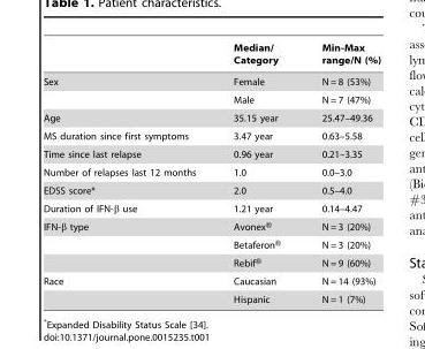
<table><thead><tr><td></td><td>Median/ Category</td><td>Min-Max range/N (%)</td></tr></thead><tbody><tr><td rowspan="2">Sex</td><td>Female</td><td>N = 8 (53%)</td></tr><tr><td>Male</td><td>N = 7 (47%)</td></tr><tr><td>Age</td><td>35.15 year</td><td>25.47–49.36</td></tr><tr><td>MS duration since first symptoms</td><td>3.47 year</td><td>0.63–5.58</td></tr><tr><td>Time since last relapse</td><td>0.96 year</td><td>0.21–3.35</td></tr><tr><td>Number of relapses last 12 months</td><td>1.0</td><td>0.0–3.0</td></tr><tr><td>EDSS score*</td><td>2.0</td><td>0.5–4.0</td></tr><tr><td>Duration of IFN-β use</td><td>1.21 year</td><td>0.14–4.47</td></tr><tr><td rowspan="3">IFN-β type</td><td>Avonex®</td><td>N = 3 (20%)</td></tr><tr><td>Betaferon®</td><td>N = 3 (20%)</td></tr><tr><td>Rebif®</td><td>N = 9 (60%)</td></tr><tr><td rowspan="2">Race</td><td>Caucasian</td><td>N = 14 (93%)</td></tr><tr><td>Hispanic</td><td>N = 1 (7%)</td></tr></tbody></table>